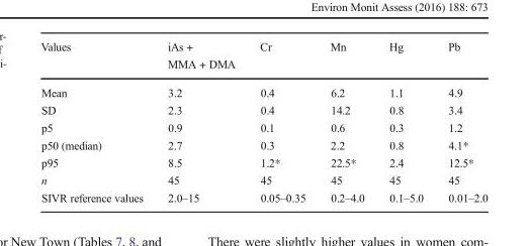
<table><thead><tr><td>Values</td><td>iAs + MMA + DMA</td><td>Cr</td><td>Mn</td><td>Hg</td><td>Pb</td></tr></thead><tbody><tr><td>Mean</td><td>3.2</td><td>0.4</td><td>6.2</td><td>1.1</td><td>4.9</td></tr><tr><td>SD</td><td>2.3</td><td>0.4</td><td>14.2</td><td>0.8</td><td>3.4</td></tr><tr><td>p5</td><td>0.9</td><td>0.1</td><td>0.6</td><td>0.3</td><td>1.2</td></tr><tr><td>p50 (median)</td><td>2.7</td><td>0.3</td><td>2.2</td><td>0.8</td><td>4.1*</td></tr><tr><td>p95</td><td>8.5</td><td>1.2*</td><td>22.5*</td><td>2.4</td><td>12.5*</td></tr><tr><td>n</td><td>45</td><td>45</td><td>45</td><td>45</td><td>45</td></tr><tr><td>SIVR reference values</td><td>2.0–15</td><td>0.05–0.35</td><td>0.2–4.0</td><td>0.1–5.0</td><td>0.01–2.0</td></tr></tbody></table>